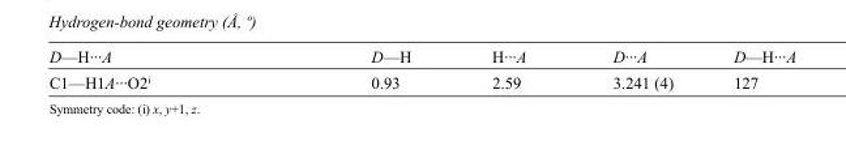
<table><tbody><tr><td>D—H···A</td><td>D—H</td><td>H···A</td><td>D···A</td><td>D—H···A</td></tr><tr><td>C1—H1A···O2<sup>i</sup></td><td>0.93</td><td>2.59</td><td>3.241 (4)</td><td>127</td></tr></tbody></table>